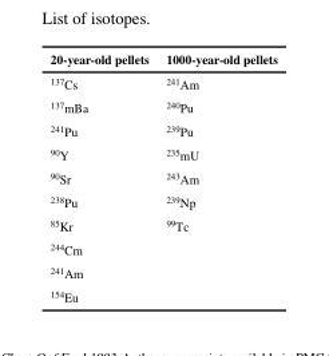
<table><thead><tr><td>20-year-old pellets</td><td>1000-year-old pellets</td></tr></thead><tbody><tr><td><sup>137</sup>Cs</td><td><sup>241</sup>Am</td></tr><tr><td><sup>137</sup>mBa</td><td><sup>240</sup>Pu</td></tr><tr><td><sup>241</sup>Pu</td><td><sup>239</sup>Pu</td></tr><tr><td><sup>90</sup>Y</td><td><sup>235</sup>mU</td></tr><tr><td><sup>90</sup>Sr</td><td><sup>243</sup>Am</td></tr><tr><td><sup>238</sup>Pu</td><td><sup>239</sup>Np</td></tr><tr><td><sup>85</sup>Kr</td><td><sup>99</sup>Tc</td></tr><tr><td colspan="2"><sup>244</sup>Cm</td></tr><tr><td colspan="2"><sup>241</sup>Am</td></tr><tr><td><sup>154</sup>Eu</td><td></td></tr></tbody></table>